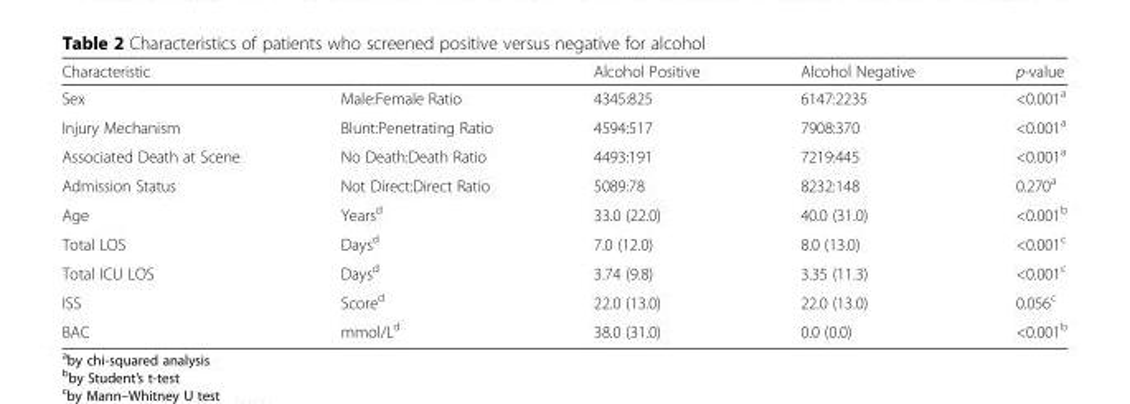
<table><thead><tr><td>Characteristic</td><td></td><td>Alcohol Positive</td><td>Alcohol Negative</td><td>p-value</td></tr></thead><tbody><tr><td>Sex</td><td>Male:Female Ratio</td><td>4345:825</td><td>6147:2235</td><td>&lt;0.001<sup>a</sup></td></tr><tr><td>Injury Mechanism</td><td>Blunt:Penetrating Ratio</td><td>4594:517</td><td>7908:370</td><td>&lt;0.001<sup>a</sup></td></tr><tr><td>Associated Death at Scene</td><td>No Death:Death Ratio</td><td>4493:191</td><td>7219:445</td><td>&lt;0.001<sup>a</sup></td></tr><tr><td>Admission Status</td><td>Not Direct:Direct Ratio</td><td>5089:78</td><td>8232:148</td><td>0.270<sup>a</sup></td></tr><tr><td>Age</td><td>Years<sup>d</sup></td><td>33.0 (22.0)</td><td>40.0 (31.0)</td><td>&lt;0.001<sup>b</sup></td></tr><tr><td>Total LOS</td><td>Days<sup>d</sup></td><td>7.0 (12.0)</td><td>8.0 (13.0)</td><td>&lt;0.001<sup>c</sup></td></tr><tr><td>Total ICU LOS</td><td>Days<sup>d</sup></td><td>3.74 (9.8)</td><td>3.35 (11.3)</td><td>&lt;0.001<sup>c</sup></td></tr><tr><td>ISS</td><td>Score<sup>d</sup></td><td>22.0 (13.0)</td><td>22.0 (13.0)</td><td>0.056<sup>c</sup></td></tr><tr><td>BAC</td><td>mmol/L<sup>d</sup></td><td>38.0 (31.0)</td><td>0.0 (0.0)</td><td>&lt;0.001<sup>b</sup></td></tr></tbody></table>